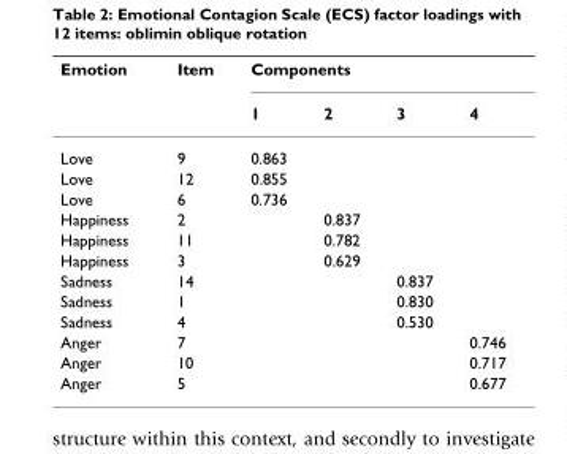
<table><thead><tr><td rowspan="2">Emotion</td><td rowspan="2">Item</td><td colspan="4">Components</td></tr><tr><td>1</td><td>2</td><td>3</td><td>4</td></tr></thead><tbody><tr><td>Love</td><td>9</td><td>0.863</td><td></td><td></td><td></td></tr><tr><td>Love</td><td>12</td><td>0.855</td><td></td><td></td><td></td></tr><tr><td>Love</td><td>6</td><td>0.736</td><td></td><td></td><td></td></tr><tr><td>Happiness</td><td>2</td><td></td><td>0.837</td><td></td><td></td></tr><tr><td>Happiness</td><td>11</td><td></td><td>0.782</td><td></td><td></td></tr><tr><td>Happiness</td><td>3</td><td></td><td>0.629</td><td></td><td></td></tr><tr><td>Sadness</td><td>14</td><td></td><td></td><td>0.837</td><td></td></tr><tr><td>Sadness</td><td>1</td><td></td><td></td><td>0.830</td><td></td></tr><tr><td>Sadness</td><td>4</td><td></td><td></td><td>0.530</td><td></td></tr><tr><td>Anger</td><td>7</td><td></td><td></td><td></td><td>0.746</td></tr><tr><td>Anger</td><td>10</td><td></td><td></td><td></td><td>0.717</td></tr><tr><td>Anger</td><td>5</td><td></td><td></td><td></td><td>0.677</td></tr></tbody></table>